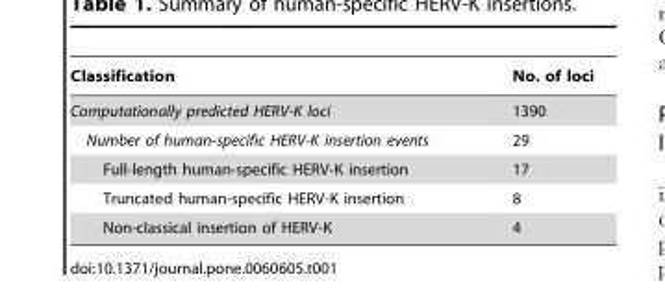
<table><thead><tr><td>Classification</td><td>No. of loci</td></tr></thead><tbody><tr><td>Computationally predicted HERV-K loci</td><td>1390</td></tr><tr><td>Number of human-specific HERV-K insertion events</td><td>29</td></tr><tr><td>Full-length human-specific HERV-K insertion</td><td>17</td></tr><tr><td>Truncated human-specific HERV-K insertion</td><td>8</td></tr><tr><td>Non-classical insertion of HERV-K</td><td>4</td></tr></tbody></table>